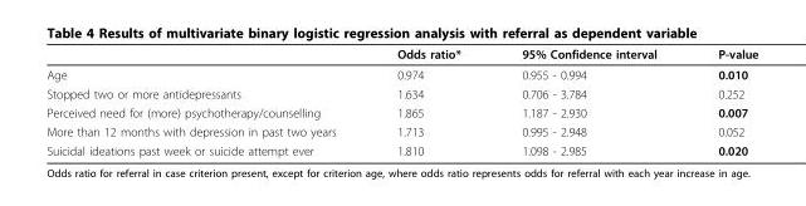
<table><thead><tr><td></td><td>Odds ratio*</td><td>95% Confidence interval</td><td>P-value</td></tr></thead><tbody><tr><td>Age</td><td>0.974</td><td>0.955 - 0.994</td><td>0.010</td></tr><tr><td>Stopped two or more antidepressants</td><td>1.634</td><td>0.706 - 3.784</td><td>0.252</td></tr><tr><td>Perceived need for (more) psychotherapy/counselling</td><td>1.865</td><td>1.187 - 2.930</td><td>0.007</td></tr><tr><td>More than 12 months with depression in past two years</td><td>1.713</td><td>0.995 - 2.948</td><td>0.052</td></tr><tr><td>Suicidal ideations past week or suicide attempt ever</td><td>1.810</td><td>1.098 - 2.985</td><td>0.020</td></tr></tbody></table>